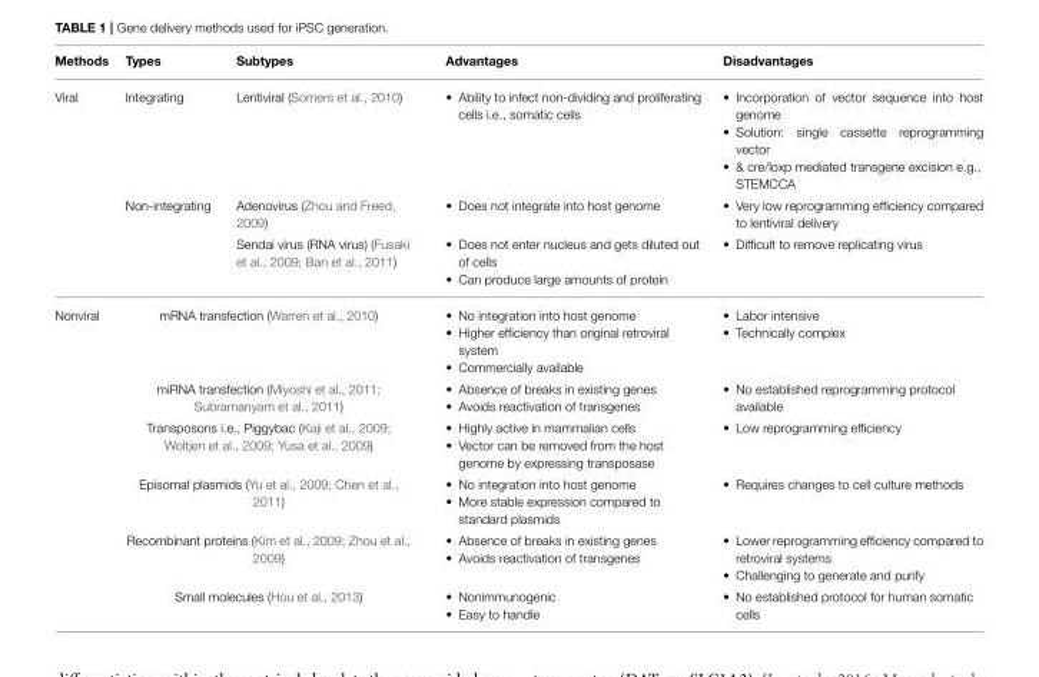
<table><thead><tr><td>Methods</td><td>Types</td><td>Subtypes</td><td>Advantages</td><td>Disadvantages</td></tr></thead><tbody><tr><td rowspan="3">Viral</td><td>Integrating</td><td>Lentiviral (Somers et al., 2010)</td><td>• Ability to infect non-dividing and proliferating cells i.e., somatic cells</td><td>• Incorporation of vector sequence into host genome • Solution: single cassette reprogramming vector • &amp; cre/loxp mediated transgene excision e.g., STEMCCA</td></tr><tr><td>Non-integrating</td><td>Adenovirus (Zhou and Freed, 2009)</td><td>• Does not integrate into host genome</td><td>• Very low reprogramming efficiency compared to lentiviral delivery</td></tr><tr><td></td><td>Sendai virus (RNA virus) (Fusaki et al., 2009; Ban et al., 2011)</td><td>• Does not enter nucleus and gets diluted out of cells • Can produce large amounts of protein</td><td>• Difficult to remove replicating virus</td></tr><tr><td rowspan="6">Nonviral</td><td colspan="2">mRNA transfection (Warren et al., 2010)</td><td>• No integration into host genome • Higher efficiency than original retroviral system • Commercially available</td><td>• Labor intensive • Technically complex</td></tr><tr><td colspan="2">miRNA transfection (Miyoshi et al., 2011; Subramanyam et al., 2011)</td><td>• Absence of breaks in existing genes • Avoids reactivation of transgenes</td><td>• No established reprogramming protocol available</td></tr><tr><td colspan="2">Transposons i.e., Piggybac (Kaji et al., 2009; Woltjen et al., 2009; Yusa et al., 2009)</td><td>• Highly active in mammalian cells • Vector can be removed from the host genome by expressing transposase</td><td>• Low reprogramming efficiency</td></tr><tr><td colspan="2">Episomal plasmids (Yu et al., 2009; Chen et al., 2011)</td><td>• No integration into host genome • More stable expression compared to standard plasmids</td><td>• Requires changes to cell culture methods</td></tr><tr><td colspan="2">Recombinant proteins (Kim et al., 2009; Zhou et al., 2009)</td><td>• Absence of breaks in existing genes • Avoids reactivation of transgenes</td><td>• Lower reprogramming efficiency compared to retroviral systems • Challenging to generate and purify</td></tr><tr><td colspan="2">Small molecules (Hou et al., 2013)</td><td>• Nonimmunogenic • Easy to handle</td><td>• No established protocol for human somatic cells</td></tr></tbody></table>